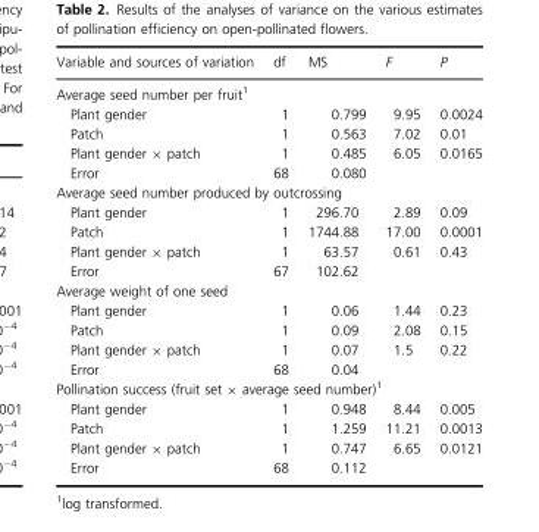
<table><thead><tr><td>Variable and sources of variation</td><td>df</td><td>MS</td><td>F</td><td>P</td></tr></thead><tbody><tr><td colspan="5">Average seed number per fruit<sup>1</sup></td></tr><tr><td>Plant gender</td><td>1</td><td>0.799</td><td>9.95</td><td>0.0024</td></tr><tr><td>Patch</td><td>1</td><td>0.563</td><td>7.02</td><td>0.01</td></tr><tr><td>Plant gender × patch</td><td>1</td><td>0.485</td><td>6.05</td><td>0.0165</td></tr><tr><td>Error</td><td>68</td><td>0.080</td><td></td><td></td></tr><tr><td colspan="5">Average seed number produced by outcrossing</td></tr><tr><td>Plant gender</td><td>1</td><td>296.70</td><td>2.89</td><td>0.09</td></tr><tr><td>Patch</td><td>1</td><td>1744.88</td><td>17.00</td><td>0.0001</td></tr><tr><td>Plant gender × patch</td><td>1</td><td>63.57</td><td>0.61</td><td>0.43</td></tr><tr><td>Error</td><td>67</td><td>102.62</td><td></td><td></td></tr><tr><td colspan="5">Average weight of one seed</td></tr><tr><td>Plant gender</td><td>1</td><td>0.06</td><td>1.44</td><td>0.23</td></tr><tr><td>Patch</td><td>1</td><td>0.09</td><td>2.08</td><td>0.15</td></tr><tr><td>Plant gender × patch</td><td>1</td><td>0.07</td><td>1.5</td><td>0.22</td></tr><tr><td>Error</td><td>68</td><td>0.04</td><td></td><td></td></tr><tr><td colspan="5">Pollination success (fruit set × average seed number)<sup>1</sup></td></tr><tr><td>Plant gender</td><td>1</td><td>0.948</td><td>8.44</td><td>0.005</td></tr><tr><td>Patch</td><td>1</td><td>1.259</td><td>11.21</td><td>0.0013</td></tr><tr><td>Plant gender × patch</td><td>1</td><td>0.747</td><td>6.65</td><td>0.0121</td></tr><tr><td>Error</td><td>68</td><td>0.112</td><td></td><td></td></tr></tbody></table>